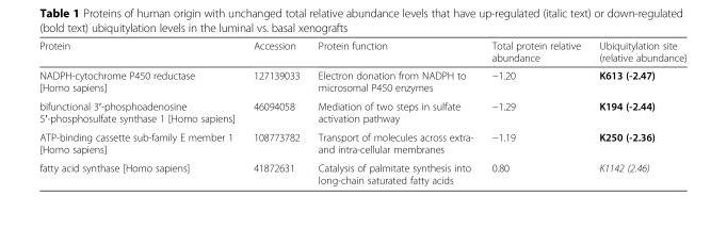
<table><thead><tr><td>Protein</td><td>Accession</td><td>Protein function</td><td>Total protein relative abundance</td><td>Ubiquitylation site (relative abundance)</td></tr></thead><tbody><tr><td>NADPH-cytochrome P450 reductase [Homo sapiens]</td><td>127139033</td><td>Electron donation from NADPH to microsomal P450 enzymes</td><td>−1.20</td><td>K613 (-2.47)</td></tr><tr><td>bifunctional 3′-phosphoadenosine 5′-phosphosulfate synthase 1 [Homo sapiens]</td><td>46094058</td><td>Mediation of two steps in sulfate activation pathway</td><td>−1.29</td><td>K194 (-2.44)</td></tr><tr><td>ATP-binding cassette sub-family E member 1 [Homo sapiens]</td><td>108773782</td><td>Transport of molecules across extra- and intra-cellular membranes</td><td>−1.19</td><td>K250 (-2.36)</td></tr><tr><td>fatty acid synthase [Homo sapiens]</td><td>41872631</td><td>Catalysis of palmitate synthesis into long-chain saturated fatty acids</td><td>0.80</td><td>K1142 (2.46)</td></tr></tbody></table>